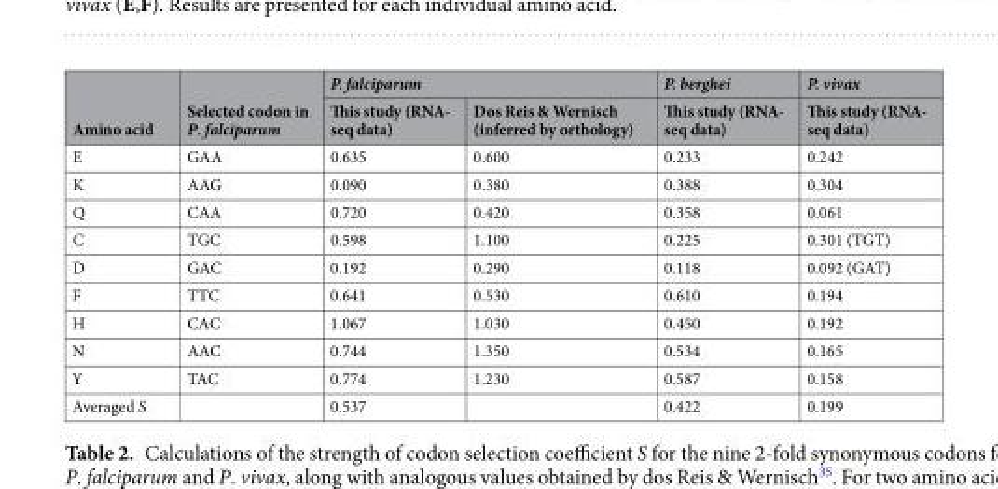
<table><thead><tr><td rowspan="2">Amino acid</td><td rowspan="2">Selected codon in P. falciparum</td><td colspan="2">P. falciparum</td><td rowspan="2">P. berghei This study (RNA- seq data)</td><td rowspan="2">P. vivax This study (RNA- seq data)</td></tr><tr><td>This study (RNA- seq data)</td><td>Dos Reis &amp; Wernisch (inferred by orthology)</td></tr></thead><tbody><tr><td>E</td><td>GAA</td><td>0.635</td><td>0.600</td><td>0.233</td><td>0.242</td></tr><tr><td>K</td><td>AAG</td><td>0.090</td><td>0.380</td><td>0.388</td><td>0.304</td></tr><tr><td>Q</td><td>CAA</td><td>0.720</td><td>0.420</td><td>0.358</td><td>0.061</td></tr><tr><td>C</td><td>TGC</td><td>0.598</td><td>1.100</td><td>0.225</td><td>0.301 (TGT)</td></tr><tr><td>D</td><td>GAC</td><td>0.192</td><td>0.290</td><td>0.118</td><td>0.092 (GAT)</td></tr><tr><td>F</td><td>TTC</td><td>0.641</td><td>0.530</td><td>0.610</td><td>0.194</td></tr><tr><td>H</td><td>CAC</td><td>1.067</td><td>1.030</td><td>0.450</td><td>0.192</td></tr><tr><td>N</td><td>AAC</td><td>0.744</td><td>1.350</td><td>0.534</td><td>0.165</td></tr><tr><td>Y</td><td>TAC</td><td>0.774</td><td>1.230</td><td>0.587</td><td>0.158</td></tr><tr><td>Averaged S</td><td></td><td>0.537</td><td></td><td>0.422</td><td>0.199</td></tr></tbody></table>